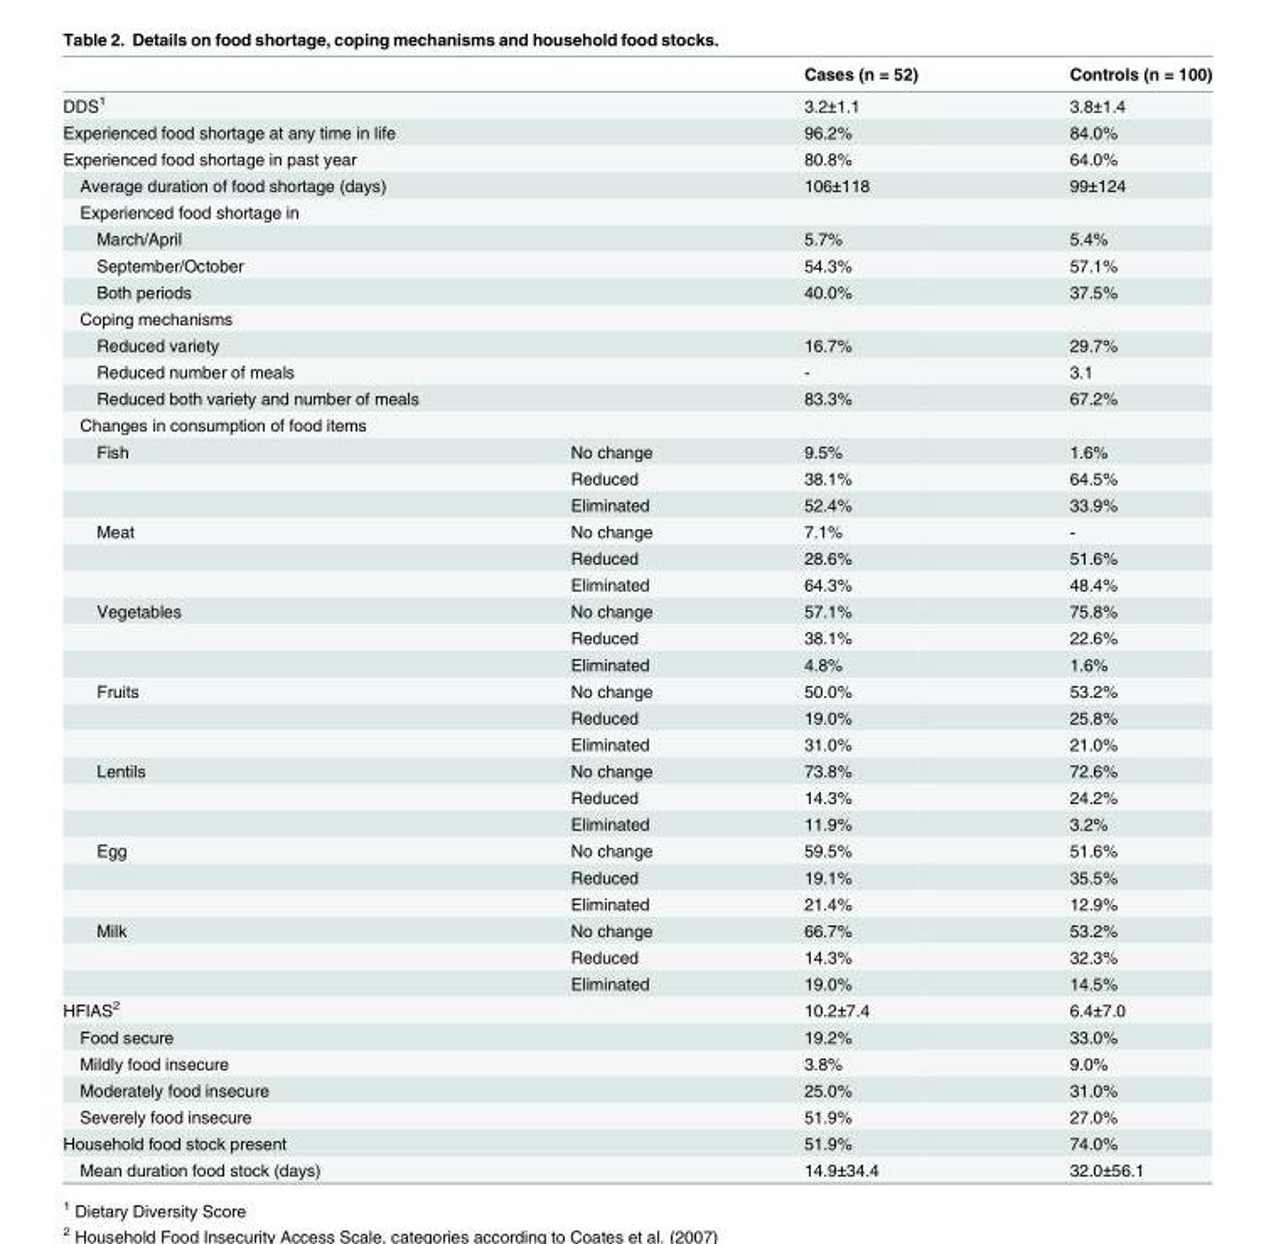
<table><thead><tr><td></td><td></td><td>Cases (n = 52)</td><td>Controls (n = 100)</td></tr></thead><tbody><tr><td>DDS<sup>1</sup></td><td></td><td>3.2±1.1</td><td>3.8±1.4</td></tr><tr><td>Experienced food shortage at any time in life</td><td></td><td>96.2%</td><td>84.0%</td></tr><tr><td>Experienced food shortage in past year</td><td></td><td>80.8%</td><td>64.0%</td></tr><tr><td>Average duration of food shortage (days)</td><td></td><td>106±118</td><td>99±124</td></tr><tr><td colspan="4">Experienced food shortage in</td></tr><tr><td>March/April</td><td></td><td>5.7%</td><td>5.4%</td></tr><tr><td>September/October</td><td></td><td>54.3%</td><td>57.1%</td></tr><tr><td>Both periods</td><td></td><td>40.0%</td><td>37.5%</td></tr><tr><td colspan="4">Coping mechanisms</td></tr><tr><td>Reduced variety</td><td></td><td>16.7%</td><td>29.7%</td></tr><tr><td>Reduced number of meals</td><td></td><td>-</td><td>3.1</td></tr><tr><td>Reduced both variety and number of meals</td><td></td><td>83.3%</td><td>67.2%</td></tr><tr><td colspan="4">Changes in consumption of food items</td></tr><tr><td rowspan="3">Fish</td><td>No change</td><td>9.5%</td><td>1.6%</td></tr><tr><td>Reduced</td><td>38.1%</td><td>64.5%</td></tr><tr><td>Eliminated</td><td>52.4%</td><td>33.9%</td></tr><tr><td rowspan="3">Meat</td><td>No change</td><td>7.1%</td><td>-</td></tr><tr><td>Reduced</td><td>28.6%</td><td>51.6%</td></tr><tr><td>Eliminated</td><td>64.3%</td><td>48.4%</td></tr><tr><td rowspan="3">Vegetables</td><td>No change</td><td>57.1%</td><td>75.8%</td></tr><tr><td>Reduced</td><td>38.1%</td><td>22.6%</td></tr><tr><td>Eliminated</td><td>4.8%</td><td>1.6%</td></tr><tr><td rowspan="3">Fruits</td><td>No change</td><td>50.0%</td><td>53.2%</td></tr><tr><td>Reduced</td><td>19.0%</td><td>25.8%</td></tr><tr><td>Eliminated</td><td>31.0%</td><td>21.0%</td></tr><tr><td rowspan="3">Lentils</td><td>No change</td><td>73.8%</td><td>72.6%</td></tr><tr><td>Reduced</td><td>14.3%</td><td>24.2%</td></tr><tr><td>Eliminated</td><td>11.9%</td><td>3.2%</td></tr><tr><td rowspan="3">Egg</td><td>No change</td><td>59.5%</td><td>51.6%</td></tr><tr><td>Reduced</td><td>19.1%</td><td>35.5%</td></tr><tr><td>Eliminated</td><td>21.4%</td><td>12.9%</td></tr><tr><td rowspan="3">Milk</td><td>No change</td><td>66.7%</td><td>53.2%</td></tr><tr><td>Reduced</td><td>14.3%</td><td>32.3%</td></tr><tr><td>Eliminated</td><td>19.0%</td><td>14.5%</td></tr><tr><td>HFIAS<sup>2</sup></td><td></td><td>10.2±7.4</td><td>6.4±7.0</td></tr><tr><td>Food secure</td><td></td><td>19.2%</td><td>33.0%</td></tr><tr><td>Mildly food insecure</td><td></td><td>3.8%</td><td>9.0%</td></tr><tr><td>Moderately food insecure</td><td></td><td>25.0%</td><td>31.0%</td></tr><tr><td>Severely food insecure</td><td></td><td>51.9%</td><td>27.0%</td></tr><tr><td>Household food stock present</td><td></td><td>51.9%</td><td>74.0%</td></tr><tr><td>Mean duration food stock (days)</td><td></td><td>14.9±34.4</td><td>32.0±56.1</td></tr></tbody></table>